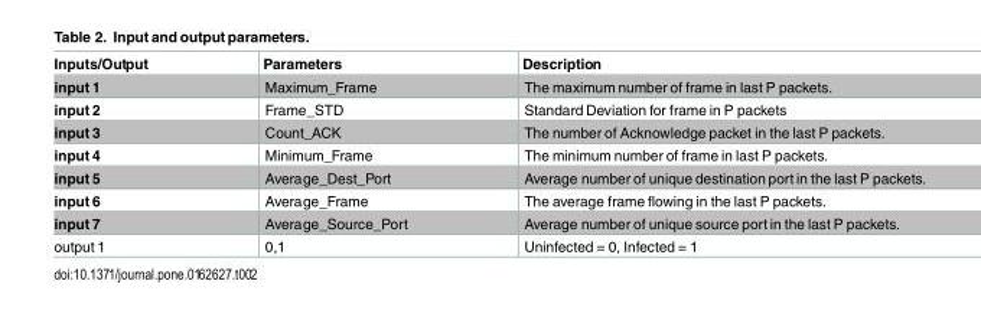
<table><thead><tr><td>Inputs/Output</td><td>Parameters</td><td>Description</td></tr></thead><tbody><tr><td>input 1</td><td>Maximum_Frame</td><td>The maximum number of frame in last P packets.</td></tr><tr><td>input 2</td><td>Frame_STD</td><td>Standard Deviation for frame in P packets</td></tr><tr><td>input 3</td><td>Count_ACK</td><td>The number of Acknowledge packet in the last P packets.</td></tr><tr><td>input 4</td><td>Minimum_Frame</td><td>The minimum number of frame in last P packets.</td></tr><tr><td>input 5</td><td>Average_Dest_Port</td><td>Average number of unique destination port in the last P packets.</td></tr><tr><td>input 6</td><td>Average_Frame</td><td>The average frame flowing in the last P packets.</td></tr><tr><td>input 7</td><td>Average_Source_Port</td><td>Average number of unique source port in the last P packets.</td></tr><tr><td>output 1</td><td>0,1</td><td>Uninfected = 0, Infected = 1</td></tr></tbody></table>